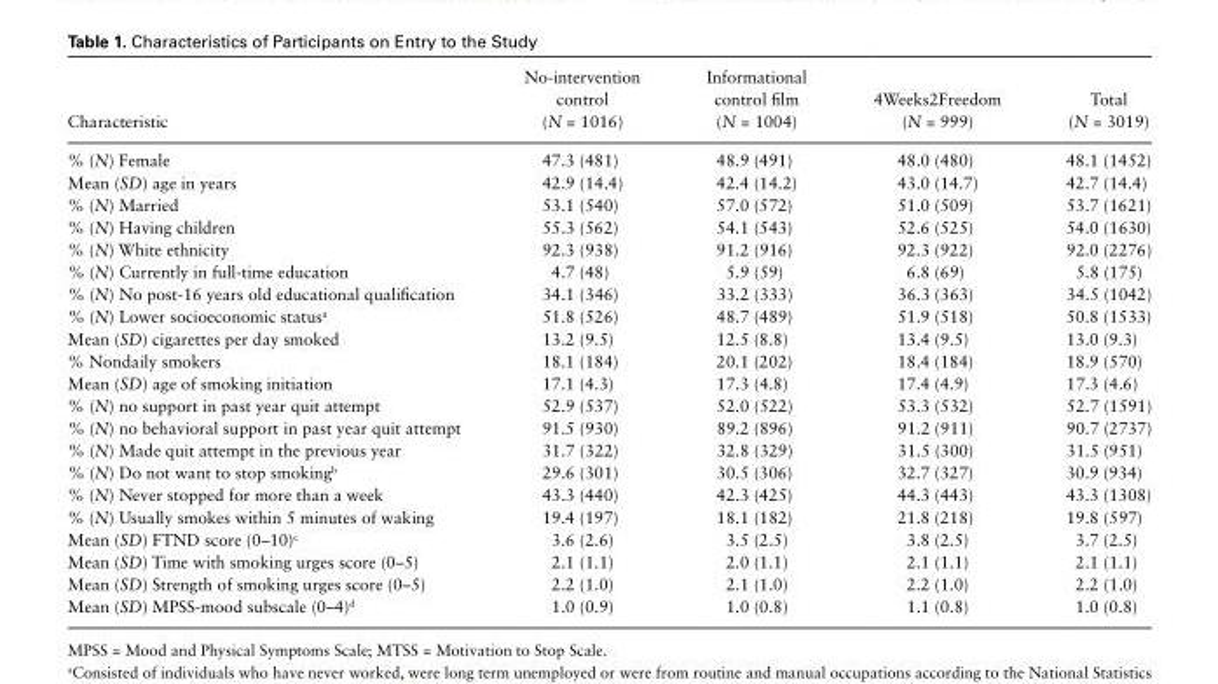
<table><thead><tr><td>Characteristic</td><td>No-intervention control (N = 1016)</td><td>Informational control film (N = 1004)</td><td>4Weeks2Freedom (N = 999)</td><td>Total (N = 3019)</td></tr></thead><tbody><tr><td>% (N) Female</td><td>47.3 (481)</td><td>48.9 (491)</td><td>48.0 (480)</td><td>48.1 (1452)</td></tr><tr><td>Mean (SD) age in years</td><td>42.9 (14.4)</td><td>42.4 (14.2)</td><td>43.0 (14.7)</td><td>42.7 (14.4)</td></tr><tr><td>% (N) Married</td><td>53.1 (540)</td><td>57.0 (572)</td><td>51.0 (509)</td><td>53.7 (1621)</td></tr><tr><td>% (N) Having children</td><td>55.3 (562)</td><td>54.1 (543)</td><td>52.6 (525)</td><td>54.0 (1630)</td></tr><tr><td>% (N) White ethnicity</td><td>92.3 (938)</td><td>91.2 (916)</td><td>92.3 (922)</td><td>92.0 (2276)</td></tr><tr><td>% (N) Currently in full-time education</td><td>4.7 (48)</td><td>5.9 (59)</td><td>6.8 (69)</td><td>5.8 (175)</td></tr><tr><td>% (N) No post-16 years old educational qualification</td><td>34.1 (346)</td><td>33.2 (333)</td><td>36.3 (363)</td><td>34.5 (1042)</td></tr><tr><td>% (N) Lower socioeconomic status<sup>a</sup></td><td>51.8 (526)</td><td>48.7 (489)</td><td>51.9 (518)</td><td>50.8 (1533)</td></tr><tr><td>Mean (SD) cigarettes per day smoked</td><td>13.2 (9.5)</td><td>12.5 (8.8)</td><td>13.4 (9.5)</td><td>13.0 (9.3)</td></tr><tr><td>% Nondaily smokers</td><td>18.1 (184)</td><td>20.1 (202)</td><td>18.4 (184)</td><td>18.9 (570)</td></tr><tr><td>Mean (SD) age of smoking initiation</td><td>17.1 (4.3)</td><td>17.3 (4.8)</td><td>17.4 (4.9)</td><td>17.3 (4.6)</td></tr><tr><td>% (N) no support in past year quit attempt</td><td>52.9 (537)</td><td>52.0 (522)</td><td>53.3 (532)</td><td>52.7 (1591)</td></tr><tr><td>% (N) no behavioral support in past year quit attempt</td><td>91.5 (930)</td><td>89.2 (896)</td><td>91.2 (911)</td><td>90.7 (2737)</td></tr><tr><td>% (N) Made quit attempt in the previous year</td><td>31.7 (322)</td><td>32.8 (329)</td><td>31.5 (300)</td><td>31.5 (951)</td></tr><tr><td>% (N) Do not want to stop smoking<sup>b</sup></td><td>29.6 (301)</td><td>30.5 (306)</td><td>32.7 (327)</td><td>30.9 (934)</td></tr><tr><td>% (N) Never stopped for more than a week</td><td>43.3 (440)</td><td>42.3 (425)</td><td>44.3 (443)</td><td>43.3 (1308)</td></tr><tr><td>% (N) Usually smokes within 5 minutes of waking</td><td>19.4 (197)</td><td>18.1 (182)</td><td>21.8 (218)</td><td>19.8 (597)</td></tr><tr><td>Mean (SD) FTND score (0–10)<sup>c</sup></td><td>3.6 (2.6)</td><td>3.5 (2.5)</td><td>3.8 (2.5)</td><td>3.7 (2.5)</td></tr><tr><td>Mean (SD) Time with smoking urges score (0–5)</td><td>2.1 (1.1)</td><td>2.0 (1.1)</td><td>2.1 (1.1)</td><td>2.1 (1.1)</td></tr><tr><td>Mean (SD) Strength of smoking urges score (0–5)</td><td>2.2 (1.0)</td><td>2.1 (1.0)</td><td>2.2 (1.0)</td><td>2.2 (1.0)</td></tr><tr><td>Mean (SD) MPSS-mood subscale (0–4)<sup>d</sup></td><td>1.0 (0.9)</td><td>1.0 (0.8)</td><td>1.1 (0.8)</td><td>1.0 (0.8)</td></tr></tbody></table>